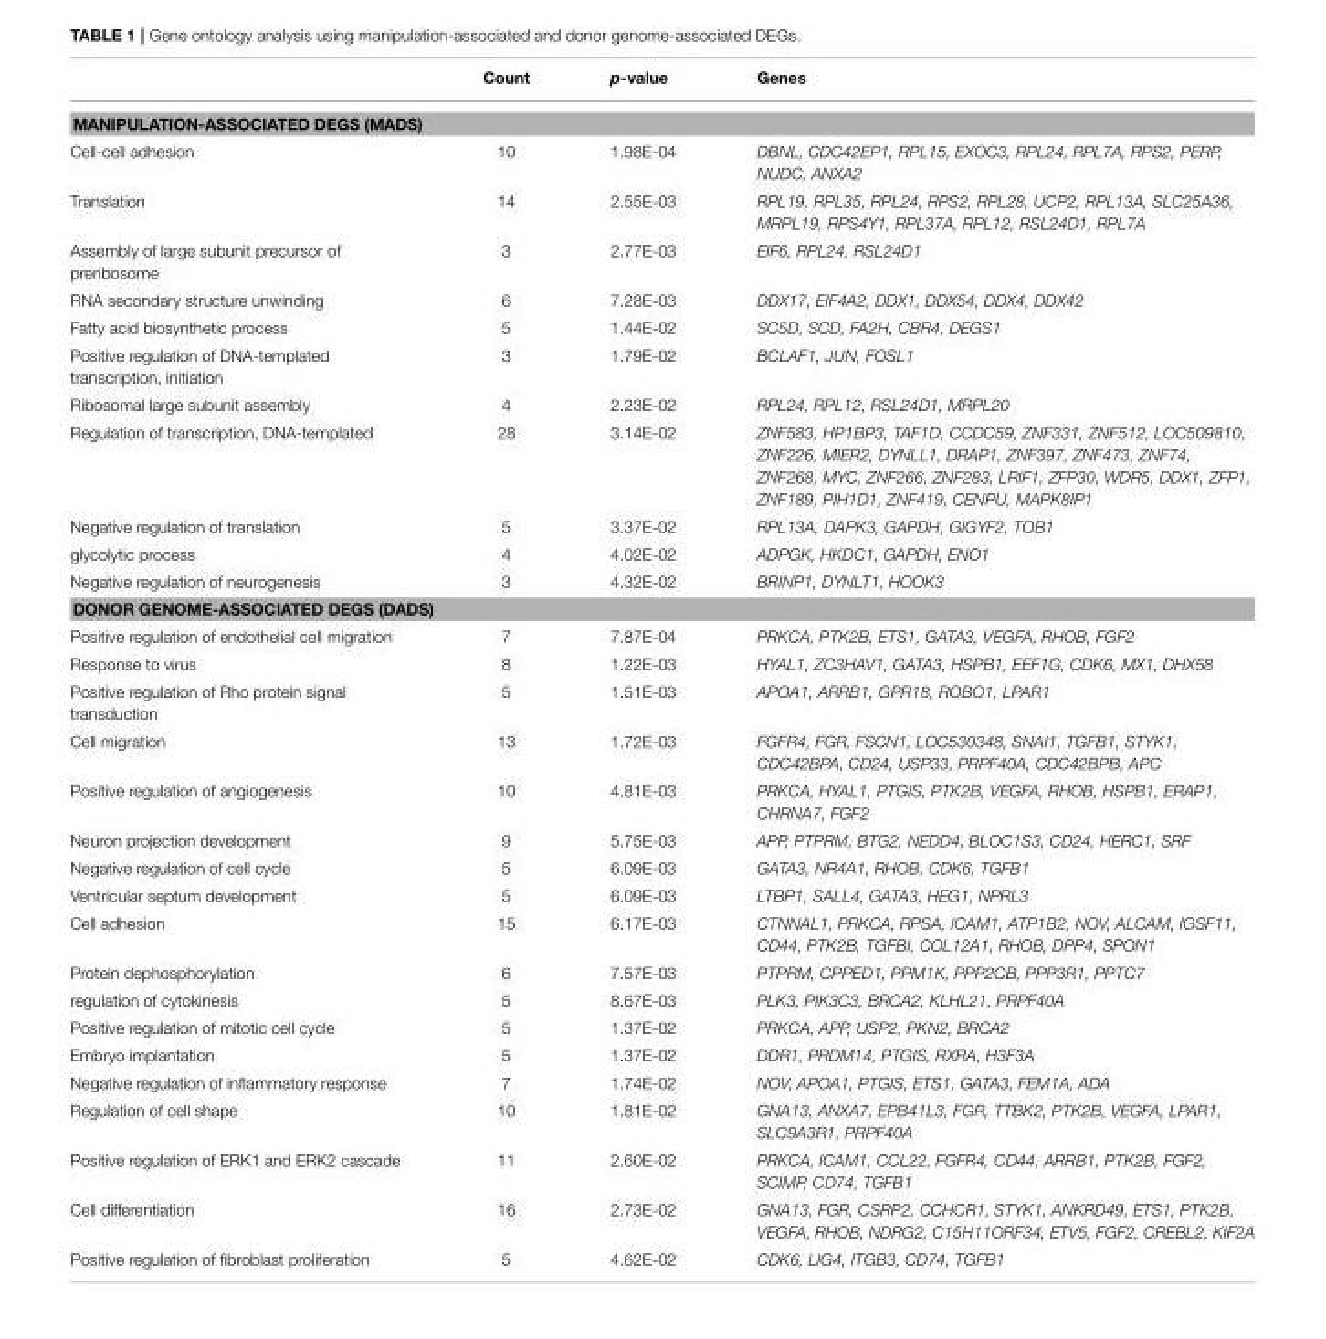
<table><thead><tr><td></td><td>Count</td><td>p-value</td><td>Genes</td></tr></thead><tbody><tr><td colspan="4">MANIPULATION-ASSOCIATED DEGS (MADS)</td></tr><tr><td>Cell-cell adhesion</td><td>10</td><td>1.98E-04</td><td>DBNL, CDC42EP1, RPL15, EXOC3, RPL24, RPL7A, RPS2, PERP, NUDC, ANXA2</td></tr><tr><td>Translation</td><td>14</td><td>2.55E-03</td><td>RPL19, RPL35, RPL24, RPS2, RPL28, UCP2, RPL13A, SLC25A36, MRPL19, RPS4Y1, RPL37A, RPL12, RSL24D1, RPL7A</td></tr><tr><td>Assembly of large subunit precursor of preribosome</td><td>3</td><td>2.77E-03</td><td>EIF6, RPL24, RSL24D1</td></tr><tr><td>RNA secondary structure unwinding</td><td>6</td><td>7.28E-03</td><td>DDX17, EIF4A2, DDX1, DDX54, DDX4, DDX42</td></tr><tr><td>Fatty acid biosynthetic process</td><td>5</td><td>1.44E-02</td><td>SC5D, SCD, FA2H, CBR4, DEGS1</td></tr><tr><td>Positive regulation of DNA-templated transcription, initiation</td><td>3</td><td>1.79E-02</td><td>BCLAF1, JUN, FOSL1</td></tr><tr><td>Ribosomal large subunit assembly</td><td>4</td><td>2.23E-02</td><td>RPL24, RPL12, RSL24D1, MRPL20</td></tr><tr><td>Regulation of transcription, DNA-templated</td><td>28</td><td>3.14E-02</td><td>ZNF583, HP1BP3, TAF1D, CCDC59, ZNF331, ZNF512, LOC509810, ZNF226, MIER2, DYNLL1, DRAP1, ZNF397, ZNF473, ZNF74, ZNF268, MYC, ZNF266, ZNF283, LRIF1, ZFP30, WDR5, DDX1, ZFP1, ZNF189, PIH1D1, ZNF419, CENPU, MAPK8IP1</td></tr><tr><td>Negative regulation of translation</td><td>5</td><td>3.37E-02</td><td>RPL13A, DAPK3, GAPDH, GIGYF2, TOB1</td></tr><tr><td>glycolytic process</td><td>4</td><td>4.02E-02</td><td>ADPGK, HKDC1, GAPDH, ENO1</td></tr><tr><td>Negative regulation of neurogenesis</td><td>3</td><td>4.32E-02</td><td>BRINP1, DYNLT1, HOOK3</td></tr><tr><td colspan="4">DONOR GENOME-ASSOCIATED DEGS (DADS)</td></tr><tr><td>Positive regulation of endothelial cell migration</td><td>7</td><td>7.87E-04</td><td>PRKCA, PTK2B, ETS1, GATA3, VEGFA, RHOB, FGF2</td></tr><tr><td>Response to virus</td><td>8</td><td>1.22E-03</td><td>HYAL1, ZC3HAV1, GATA3, HSPB1, EEF1G, CDK6, MX1, DHX58</td></tr><tr><td>Positive regulation of Rho protein signal transduction</td><td>5</td><td>1.51E-03</td><td>APOA1, ARRB1, GPR18, ROBO1, LPAR1</td></tr><tr><td>Cell migration</td><td>13</td><td>1.72E-03</td><td>FGFR4, FGR, FSCN1, LOC530348, SNAI1, TGFB1, STYK1, CDC42BPA, CD24, USP33, PRPF40A, CDC42BPB, APC</td></tr><tr><td>Positive regulation of angiogenesis</td><td>10</td><td>4.81E-03</td><td>PRKCA, HYAL1, PTGIS, PTK2B, VEGFA, RHOB, HSPB1, ERAP1, CHRNA7, FGF2</td></tr><tr><td>Neuron projection development</td><td>9</td><td>5.75E-03</td><td>APP, PTPRM, BTG2, NEDD4, BLOC1S3, CD24, HERC1, SRF</td></tr><tr><td>Negative regulation of cell cycle</td><td>5</td><td>6.09E-03</td><td>GATA3, NR4A1, RHOB, CDK6, TGFB1</td></tr><tr><td>Ventricular septum development</td><td>5</td><td>6.09E-03</td><td>LTBP1, SALL4, GATA3, HEG1, NPRL3</td></tr><tr><td>Cell adhesion</td><td>15</td><td>6.17E-03</td><td>CTNNAL1, PRKCA, RPSA, ICAM1, ATP1B2, NOV, ALCAM, IGSF11, CD44, PTK2B, TGFBI, COL12A1, RHOB, DPP4, SPON1</td></tr><tr><td>Protein dephosphorylation</td><td>6</td><td>7.57E-03</td><td>PTPRM, CPPED1, PPM1K, PPP2CB, PPP3R1, PPTC7</td></tr><tr><td>regulation of cytokinesis</td><td>5</td><td>8.67E-03</td><td>PLK3, PIK3C3, BRCA2, KLHL21, PRPF40A</td></tr><tr><td>Positive regulation of mitotic cell cycle</td><td>5</td><td>1.37E-02</td><td>PRKCA, APP, USP2, PKN2, BRCA2</td></tr><tr><td>Embryo implantation</td><td>5</td><td>1.37E-02</td><td>DDR1, PRDM14, PTGIS, RXRA, H3F3A</td></tr><tr><td>Negative regulation of inflammatory response</td><td>7</td><td>1.74E-02</td><td>NOV, APOA1, PTGIS, ETS1, GATA3, FEM1A, ADA</td></tr><tr><td>Regulation of cell shape</td><td>10</td><td>1.81E-02</td><td>GNA13, ANXA7, EPB41L3, FGR, TTBK2, PTK2B, VEGFA, LPAR1, SLC9A3R1, PRPF40A</td></tr><tr><td>Positive regulation of ERK1 and ERK2 cascade</td><td>11</td><td>2.60E-02</td><td>PRKCA, ICAM1, CCL22, FGFR4, CD44, ARRB1, PTK2B, FGF2, SCIMP, CD74, TGFB1</td></tr><tr><td>Cell differentiation</td><td>16</td><td>2.73E-02</td><td>GNA13, FGR, CSRP2, CCHCR1, STYK1, ANKRD49, ETS1, PTK2B, VEGFA, RHOB, NDRG2, C15H11ORF34, ETV5, FGF2, CREBL2, KIF2A</td></tr><tr><td>Positive regulation of fibroblast proliferation</td><td>5</td><td>4.62E-02</td><td>CDK6, LIG4, ITGB3, CD74, TGFB1</td></tr></tbody></table>